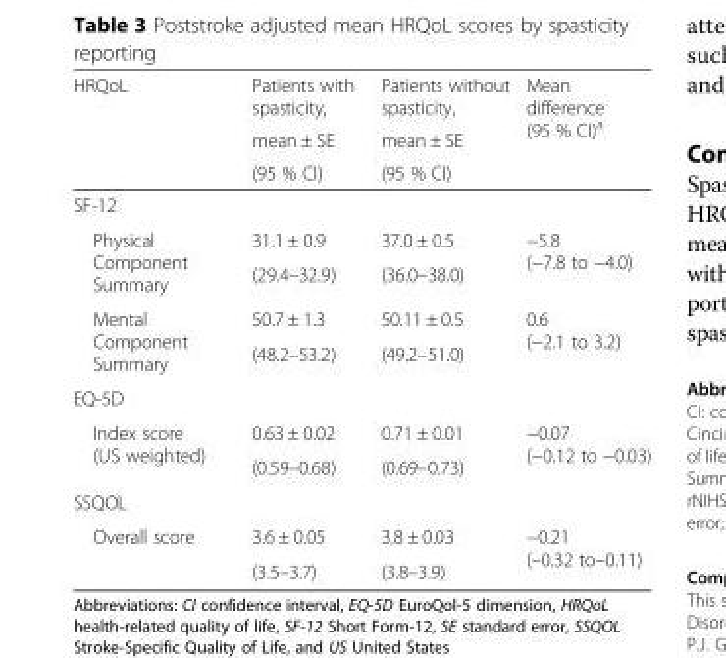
<table><thead><tr><td rowspan="3">HRQoL</td><td rowspan="3">Patients with spasticity, mean ± SE (95 % CI)</td><td rowspan="3">Patients without spasticity, mean ± SE (95 % CI)</td><td rowspan="3">Mean difference (95 % CI)<sup>a</sup></td></tr><tr></tr><tr></tr></thead><tbody><tr><td colspan="4">SF-12</td></tr><tr><td rowspan="2">Physical Component Summary</td><td>31.1 ± 0.9</td><td>37.0 ± 0.5</td><td rowspan="2">−5.8 (−7.8 to −4.0)</td></tr><tr><td>(29.4–32.9)</td><td>(36.0–38.0)</td></tr><tr><td rowspan="2">Mental Component Summary</td><td>50.7 ± 1.3</td><td>50.11 ± 0.5</td><td rowspan="2">0.6 (−2.1 to 3.2)</td></tr><tr><td>(48.2–53.2)</td><td>(49.2–51.0)</td></tr><tr><td colspan="4">EQ-5D</td></tr><tr><td rowspan="2">Index score (US weighted)</td><td>0.63 ± 0.02</td><td>0.71 ± 0.01</td><td rowspan="2">−0.07 (−0.12 to −0.03)</td></tr><tr><td>(0.59–0.68)</td><td>(0.69–0.73)</td></tr><tr><td colspan="4">SSQOL</td></tr><tr><td rowspan="2">Overall score</td><td>3.6 ± 0.05</td><td>3.8 ± 0.03</td><td rowspan="2">−0.21 (–0.32 to–0.11)</td></tr><tr><td>(3.5–3.7)</td><td>(3.8–3.9)</td></tr></tbody></table>